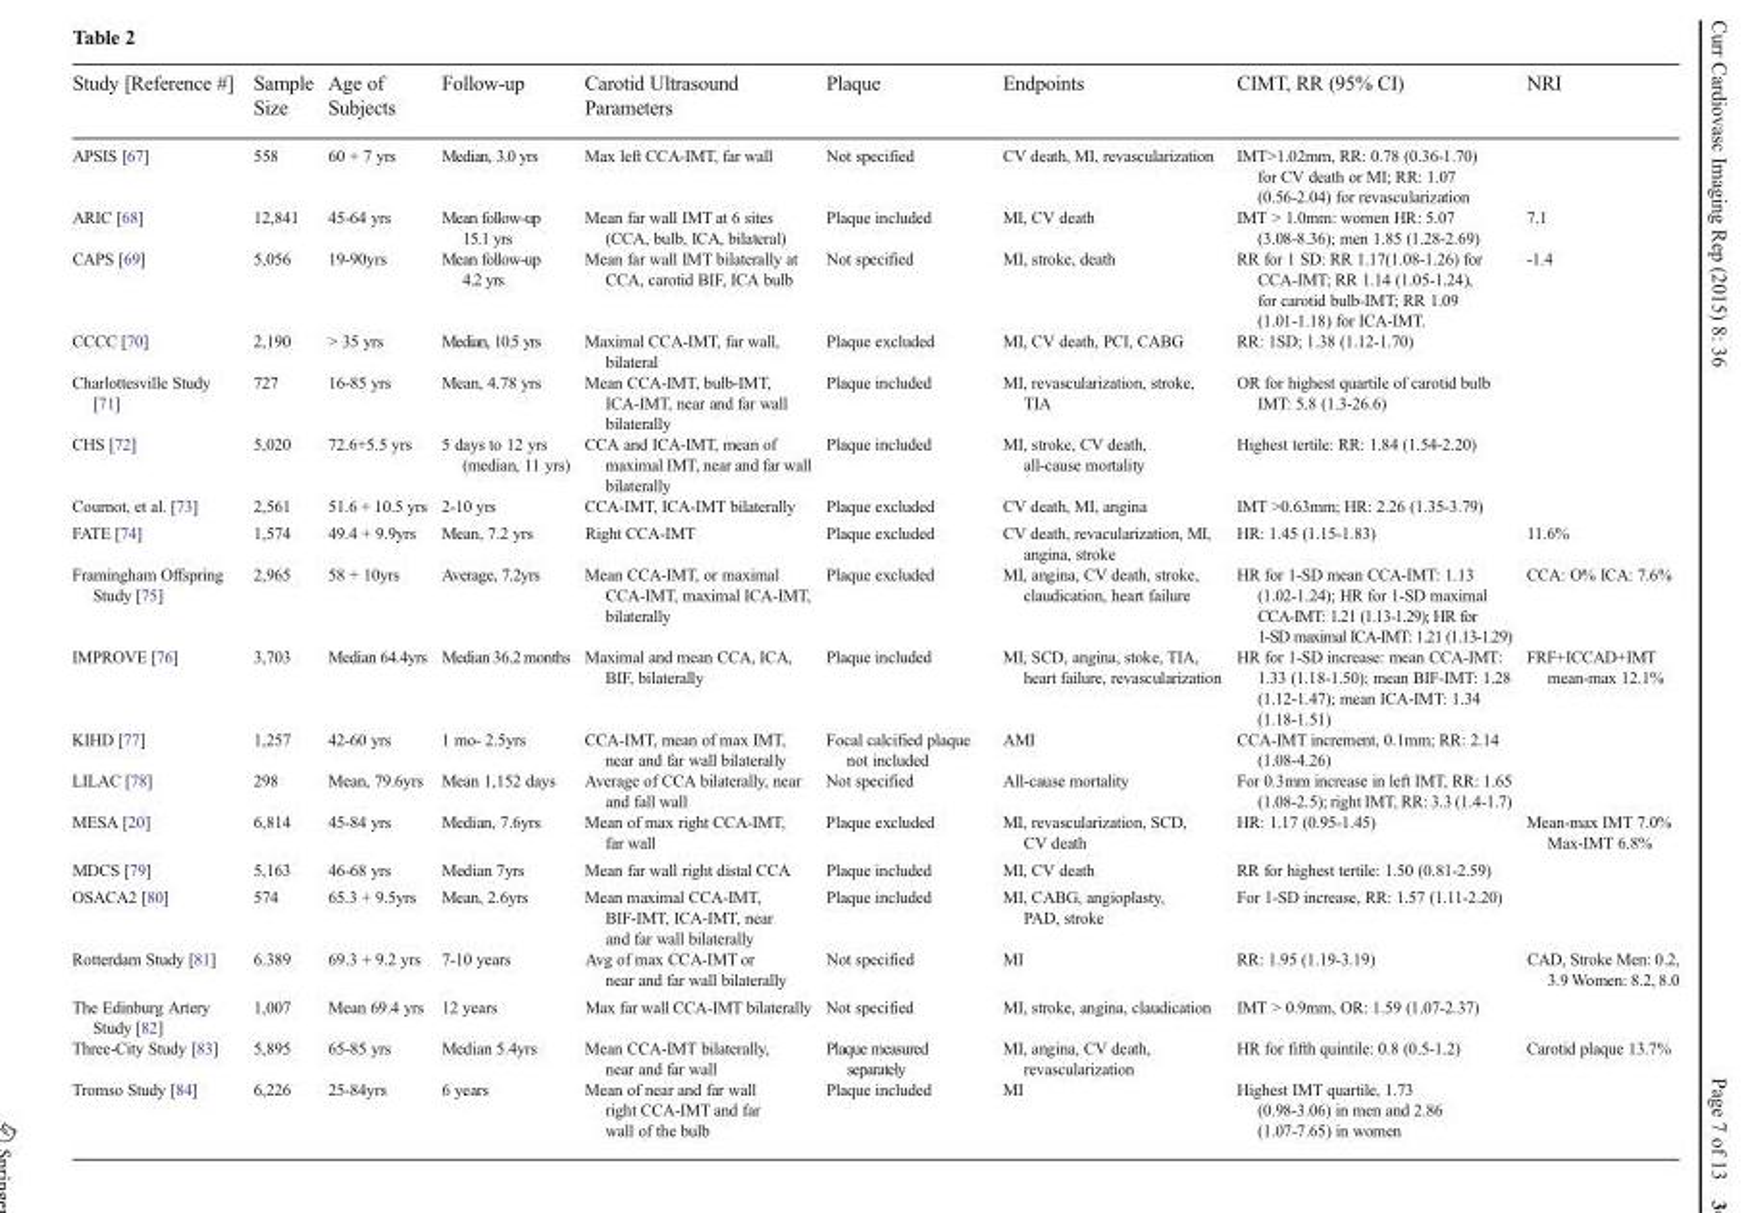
<table><thead><tr><td>Study [Reference #]</td><td>Sample Size</td><td>Age of Subjects</td><td>Follow-up</td><td>Carotid Ultrasound Parameters</td><td>Plaque</td><td>Endpoints</td><td>CIMT, RR (95% CI)</td><td>NRI</td></tr></thead><tbody><tr><td>APSIS [67]</td><td>558</td><td>60 + 7 yrs</td><td>Median, 3.0 yrs</td><td>Max left CCA-IMT, far wall</td><td>Not specified</td><td>CV death, MI, revascularization</td><td>IMT&gt;1.02mm, RR: 0.78 (0.36-1.70) for CV death or MI; RR: 1.07 (0.56-2.04) for revascularization</td><td></td></tr><tr><td>ARIC [68]</td><td>12,841</td><td>45-64 yrs</td><td>Mean follow-up 15.1 yrs</td><td>Mean far wall IMT at 6 sites (CCA, bulb, ICA, bilateral)</td><td>Plaque included</td><td>MI, CV death</td><td>IMT &gt; 1.0mm: women HR: 5.07 (3.08-8.36); men 1.85 (1.28-2.69)</td><td>7.1</td></tr><tr><td>CAPS [69]</td><td>5,056</td><td>19-90yrs</td><td>Mean follow-up 4.2 yrs</td><td>Mean far wall IMT bilaterally at CCA, carotid BIF, ICA bulb</td><td>Not specified</td><td>MI, stroke, death</td><td>RR for 1 SD: RR 1.17(1.08-1.26) for CCA-IMT; RR 1.14 (1.05-1.24), for carotid bulb-IMT; RR 1.09 (1.01-1.18) for ICA-IMT.</td><td>-1.4</td></tr><tr><td>CCCC [70]</td><td>2,190</td><td>&gt; 35 yrs</td><td>Median, 10.5 yrs</td><td>Maximal CCA-IMT, far wall, bilateral</td><td>Plaque excluded</td><td>MI, CV death, PCI, CABG</td><td>RR: 1SD; 1.38 (1.12-1.70)</td><td></td></tr><tr><td>Charlottesville Study [71]</td><td>727</td><td>16-85 yrs</td><td>Mean, 4.78 yrs</td><td>Mean CCA-IMT, bulb-IMT, ICA-IMT, near and far wall bilaterally</td><td>Plaque included</td><td>MI, revascularization, stroke, TIA</td><td>OR for highest quartile of carotid bulb IMT: 5.8 (1.3-26.6)</td><td></td></tr><tr><td>CHS [72]</td><td>5,020</td><td>72.6+5.5 yrs</td><td>5 days to 12 yrs (median, 11 yrs)</td><td>CCA and ICA-IMT, mean of maximal IMT, near and far wall bilaterally</td><td>Plaque included</td><td>MI, stroke, CV death, all-cause mortality</td><td>Highest tertile: RR: 1.84 (1.54-2.20)</td><td></td></tr><tr><td>Cournot, et al. [73]</td><td>2,561</td><td>51.6 + 10.5 yrs</td><td>2-10 yrs</td><td>CCA-IMT, ICA-IMT bilaterally</td><td>Plaque excluded</td><td>CV death, MI, angina</td><td>IMT &gt;0.63mm; HR: 2.26 (1.35-3.79)</td><td></td></tr><tr><td>FATE [74]</td><td>1,574</td><td>49.4 + 9.9yrs</td><td>Mean, 7.2 yrs</td><td>Right CCA-IMT</td><td>Plaque excluded</td><td>CV death, revacularization, MI, angina, stroke</td><td>HR: 1.45 (1.15-1.83)</td><td>11.6%</td></tr><tr><td>Framingham Offspring Study [75]</td><td>2,965</td><td>58 + 10yrs</td><td>Average, 7.2yrs</td><td>Mean CCA-IMT, or maximal CCA-IMT, maximal ICA-IMT, bilaterally</td><td>Plaque excluded</td><td>MI, angina, CV death, stroke, claudication, heart failure</td><td>HR for 1-SD mean CCA-IMT: 1.13 (1.02-1.24); HR for 1-SD maximal CCA-IMT: 1.21 (1.13-1.29); HR for 1-SD maximal ICA-IMT: 1.21 (1.13-1.29)</td><td>CCA: O% ICA: 7.6%</td></tr><tr><td>IMPROVE [76]</td><td>3,703</td><td>Median 64.4yrs</td><td>Median 36.2 months</td><td>Maximal and mean CCA, ICA, BIF, bilaterally</td><td>Plaque included</td><td>MI, SCD, angina, stoke, TIA, heart failure, revascularization</td><td>HR for 1-SD increase: mean CCA-IMT: 1.33 (1.18-1.50); mean BIF-IMT: 1.28 (1.12-1.47); mean ICA-IMT: 1.34 (1.18-1.51)</td><td>FRF+ICCAD+IMT mean-max 12.1%</td></tr><tr><td>KIHD [77]</td><td>1,257</td><td>42-60 yrs</td><td>1 mo- 2.5yrs</td><td>CCA-IMT, mean of max IMT, near and far wall bilaterally</td><td>Focal calcified plaque not included</td><td>AMI</td><td>CCA-IMT increment, 0.1mm; RR: 2.14 (1.08-4.26)</td><td></td></tr><tr><td>LILAC [78]</td><td>298</td><td>Mean, 79.6yrs</td><td>Mean 1,152 days</td><td>Average of CCA bilaterally, near and fall wall</td><td>Not specified</td><td>All-cause mortality</td><td>For 0.3mm increase in left IMT, RR: 1.65 (1.08-2.5); right IMT, RR: 3.3 (1.4-1.7)</td><td></td></tr><tr><td>MESA [20]</td><td>6,814</td><td>45-84 yrs</td><td>Median, 7.6yrs</td><td>Mean of max right CCA-IMT, far wall</td><td>Plaque excluded</td><td>MI, revascularization, SCD, CV death</td><td>HR: 1.17 (0.95-1.45)</td><td>Mean-max IMT 7.0% Max-IMT 6.8%</td></tr><tr><td>MDCS [79]</td><td>5,163</td><td>46-68 yrs</td><td>Median 7yrs</td><td>Mean far wall right distal CCA</td><td>Plaque included</td><td>MI, CV death</td><td>RR for highest tertile: 1.50 (0.81-2.59)</td><td></td></tr><tr><td>OSACA2 [80]</td><td>574</td><td>65.3 + 9.5yrs</td><td>Mean, 2.6yrs</td><td>Mean maximal CCA-IMT, BIF-IMT, ICA-IMT, near and far wall bilaterally</td><td>Plaque included</td><td>MI, CABG, angioplasty, PAD, stroke</td><td>For 1-SD increase, RR: 1.57 (1.11-2.20)</td><td></td></tr><tr><td>Rotterdam Study [81]</td><td>6.389</td><td>69.3 + 9.2 yrs</td><td>7-10 years</td><td>Avg of max CCA-IMT or near and far wall bilaterally</td><td>Not specified</td><td>MI</td><td>RR: 1.95 (1.19-3.19)</td><td>CAD, Stroke Men: 0.2, 3.9 Women: 8.2, 8.0</td></tr><tr><td>The Edinburg Artery Study [82]</td><td>1,007</td><td>Mean 69.4 yrs</td><td>12 years</td><td>Max far wall CCA-IMT bilaterally</td><td>Not specified</td><td>MI, stroke, angina, claudication</td><td>IMT &gt; 0.9mm, OR: 1.59 (1.07-2.37)</td><td></td></tr><tr><td>Three-City Study [83]</td><td>5,895</td><td>65-85 yrs</td><td>Median 5.4yrs</td><td>Mean CCA-IMT bilaterally, near and far wall</td><td>Plaque measured separately</td><td>MI, angina, CV death, revascularization</td><td>HR for fifth quintile: 0.8 (0.5-1.2)</td><td>Carotid plaque 13.7%</td></tr><tr><td>Tromso Study [84]</td><td>6,226</td><td>25-84yrs</td><td>6 years</td><td>Mean of near and far wall right CCA-IMT and far wall of the bulb</td><td>Plaque included</td><td>MI</td><td>Highest IMT quartile, 1.73 (0.98-3.06) in men and 2.86 (1.07-7.65) in women</td><td></td></tr></tbody></table>